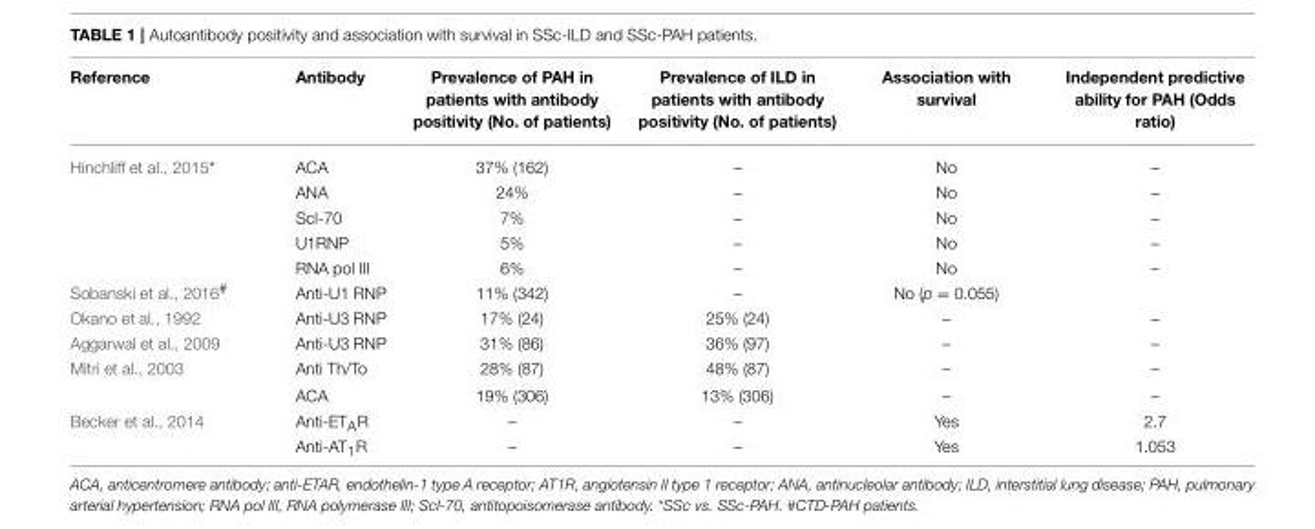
<table><thead><tr><td>Reference</td><td>Antibody</td><td>Prevalence of PAH in patients with antibody positivity (No. of patients)</td><td>Prevalence of ILD in patients with antibody positivity (No. of patients)</td><td>Association with survival</td><td>Independent predictive ability for PAH (Odds ratio)</td></tr></thead><tbody><tr><td rowspan="5">Hinchliff et al., 2015*</td><td>ACA</td><td>37% (162)</td><td>–</td><td>No</td><td>–</td></tr><tr><td>ANA</td><td>24%</td><td>–</td><td>No</td><td>–</td></tr><tr><td>Scl-70</td><td>7%</td><td>–</td><td>No</td><td>–</td></tr><tr><td>U1RNP</td><td>5%</td><td>–</td><td>No</td><td>–</td></tr><tr><td>RNA pol III</td><td>6%</td><td>–</td><td>No</td><td>–</td></tr><tr><td>Sobanski et al., 2016<sup>#</sup></td><td>Anti-U1 RNP</td><td>11% (342)</td><td>–</td><td>No (p = 0.055)</td><td></td></tr><tr><td>Okano et al., 1992</td><td>Anti-U3 RNP</td><td>17% (24)</td><td>25% (24)</td><td>–</td><td>–</td></tr><tr><td>Aggarwal et al., 2009</td><td>Anti-U3 RNP</td><td>31% (86)</td><td>36% (97)</td><td>–</td><td>–</td></tr><tr><td rowspan="2">Mitri et al., 2003</td><td>Anti Th/To</td><td>28% (87)</td><td>48% (87)</td><td>–</td><td>–</td></tr><tr><td>ACA</td><td>19% (306)</td><td>13% (306)</td><td>–</td><td>–</td></tr><tr><td rowspan="2">Becker et al., 2014</td><td>Anti-ET<sub>A</sub>R</td><td>–</td><td>–</td><td>Yes</td><td>2.7</td></tr><tr><td>Anti-AT<sub>1</sub>R</td><td>–</td><td>–</td><td>Yes</td><td>1.053</td></tr></tbody></table>